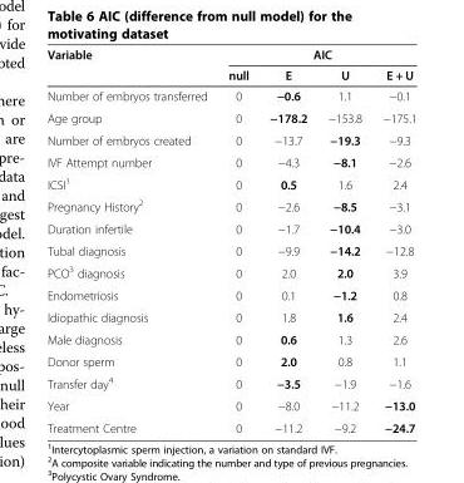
<table><thead><tr><td rowspan="2">Variable</td><td colspan="4">AIC</td></tr><tr><td>null</td><td>E</td><td>U</td><td>E + U</td></tr></thead><tbody><tr><td>Number of embryos transferred</td><td>0</td><td>−0.6</td><td>1.1</td><td>−0.1</td></tr><tr><td>Age group</td><td>0</td><td>−178.2</td><td>−153.8</td><td>−175.1</td></tr><tr><td>Number of embryos created</td><td>0</td><td>−13.7</td><td>−19.3</td><td>−9.3</td></tr><tr><td>IVF Attempt number</td><td>0</td><td>−4.3</td><td>−8.1</td><td>−2.6</td></tr><tr><td>ICSI<sup>1</sup></td><td>0</td><td>0.5</td><td>1.6</td><td>2.4</td></tr><tr><td>Pregnancy History<sup>2</sup></td><td>0</td><td>−2.6</td><td>−8.5</td><td>−3.1</td></tr><tr><td>Duration infertile</td><td>0</td><td>−1.7</td><td>−10.4</td><td>−3.0</td></tr><tr><td>Tubal diagnosis</td><td>0</td><td>−9.9</td><td>−14.2</td><td>−12.8</td></tr><tr><td>PCO<sup>3</sup> diagnosis</td><td>0</td><td>2.0</td><td>2.0</td><td>3.9</td></tr><tr><td>Endometriosis</td><td>0</td><td>0.1</td><td>−1.2</td><td>0.8</td></tr><tr><td>Idiopathic diagnosis</td><td>0</td><td>1.8</td><td>1.6</td><td>2.4</td></tr><tr><td>Male diagnosis</td><td>0</td><td>0.6</td><td>1.3</td><td>2.6</td></tr><tr><td>Donor sperm</td><td>0</td><td>2.0</td><td>0.8</td><td>1.1</td></tr><tr><td>Transfer day<sup>4</sup></td><td>0</td><td>−3.5</td><td>−1.9</td><td>−1.6</td></tr><tr><td>Year</td><td>0</td><td>−8.0</td><td>−11.2</td><td>−13.0</td></tr><tr><td>Treatment Centre</td><td>0</td><td>−11.2</td><td>−9.2</td><td>−24.7</td></tr></tbody></table>